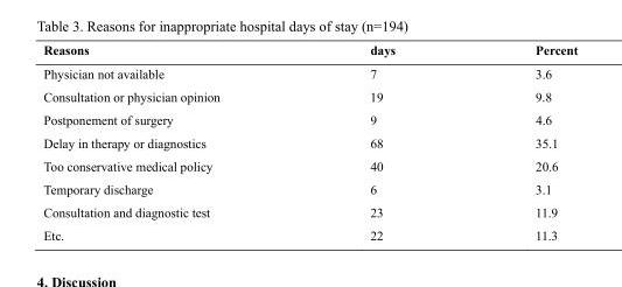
<table><thead><tr><td>Reasons</td><td>days</td><td>Percent</td></tr></thead><tbody><tr><td>Physician not available</td><td>7</td><td>3.6</td></tr><tr><td>Consultation or physician opinion</td><td>19</td><td>9.8</td></tr><tr><td>Postponement of surgery</td><td>9</td><td>4.6</td></tr><tr><td>Delay in therapy or diagnostics</td><td>68</td><td>35.1</td></tr><tr><td>Too conservative medical policy</td><td>40</td><td>20.6</td></tr><tr><td>Temporary discharge</td><td>6</td><td>3.1</td></tr><tr><td>Consultation and diagnostic test</td><td>23</td><td>11.9</td></tr><tr><td>Etc.</td><td>22</td><td>11.3</td></tr></tbody></table>